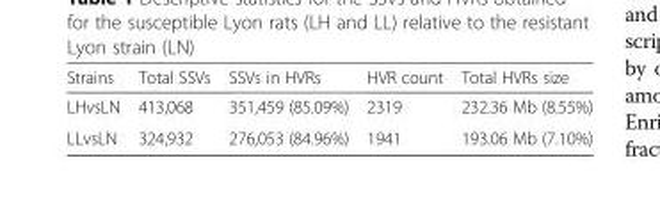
<table><thead><tr><td>Strains</td><td>Total SSVs</td><td>SSVs in HVRs</td><td>HVR count</td><td>Total HVRs size</td></tr></thead><tbody><tr><td>LHvsLN</td><td>413,068</td><td>351,459 (85.09%)</td><td>2319</td><td>232.36 Mb (8.55%)</td></tr><tr><td>LLvsLN</td><td>324,932</td><td>276,053 (84.96%)</td><td>1941</td><td>193.06 Mb (7.10%)</td></tr></tbody></table>